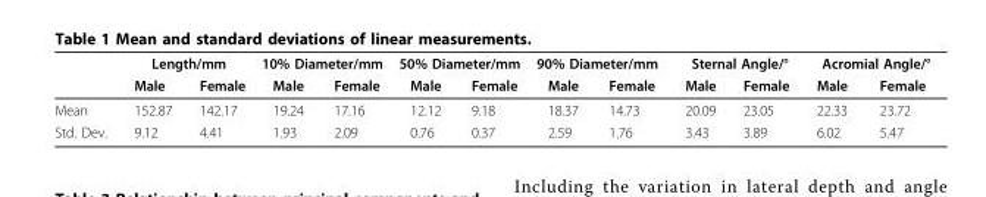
<table><thead><tr><td rowspan="2"></td><td colspan="2">Length/mm</td><td colspan="2">10% Diameter/mm</td><td colspan="2">50% Diameter/mm</td><td colspan="2">90% Diameter/mm</td><td colspan="2">Sternal Angle/°</td><td colspan="2">Acromial Angle/°</td></tr><tr><td>Male</td><td>Female</td><td>Male</td><td>Female</td><td>Male</td><td>Female</td><td>Male</td><td>Female</td><td>Male</td><td>Female</td><td>Male</td><td>Female</td></tr></thead><tbody><tr><td>Mean</td><td>152.87</td><td>142.17</td><td>19.24</td><td>17.16</td><td>12.12</td><td>9.18</td><td>18.37</td><td>14.73</td><td>20.09</td><td>23.05</td><td>22.33</td><td>23.72</td></tr><tr><td>Std. Dev.</td><td>9.12</td><td>4.41</td><td>1.93</td><td>2.09</td><td>0.76</td><td>0.37</td><td>2.59</td><td>1.76</td><td>3.43</td><td>3.89</td><td>6.02</td><td>5.47</td></tr></tbody></table>